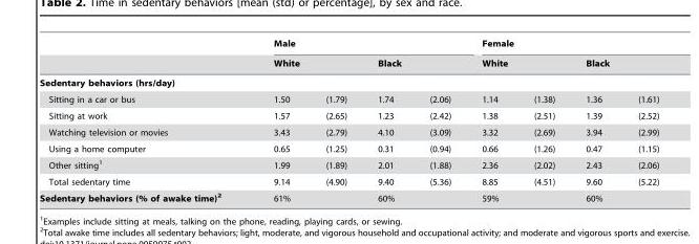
<table><thead><tr><td rowspan="3">Sedentary behaviors (hrs/day)</td><td colspan="4">Male</td><td colspan="4">Female</td></tr><tr><td colspan="2">White</td><td colspan="2">Black</td><td colspan="2">White</td><td colspan="2">Black</td></tr><tr><td></td><td></td><td></td><td></td><td></td><td></td><td></td><td></td></tr></thead><tbody><tr><td>Sitting in a car or bus</td><td>1.50</td><td>(1.79)</td><td>1.74</td><td>(2.06)</td><td>1.14</td><td>(1.38)</td><td>1.36</td><td>(1.61)</td></tr><tr><td>Sitting at work</td><td>1.57</td><td>(2.65)</td><td>1.23</td><td>(2.42)</td><td>1.38</td><td>(2.51)</td><td>1.39</td><td>(2.52)</td></tr><tr><td>Watching television or movies</td><td>3.43</td><td>(2.79)</td><td>4.10</td><td>(3.09)</td><td>3.32</td><td>(2.69)</td><td>3.94</td><td>(2.99)</td></tr><tr><td>Using a home computer</td><td>0.65</td><td>(1.25)</td><td>0.31</td><td>(0.94)</td><td>0.66</td><td>(1.26)</td><td>0.47</td><td>(1.15)</td></tr><tr><td>Other sitting<sup>1</sup></td><td>1.99</td><td>(1.89)</td><td>2.01</td><td>(1.88)</td><td>2.36</td><td>(2.02)</td><td>2.43</td><td>(2.06)</td></tr><tr><td>Total sedentary time</td><td>9.14</td><td>(4.90)</td><td>9.40</td><td>(5.36)</td><td>8.85</td><td>(4.51)</td><td>9.60</td><td>(5.22)</td></tr><tr><td>Sedentary behaviors (% of awake time)2</td><td colspan="2">61%</td><td colspan="2">60%</td><td colspan="2">59%</td><td colspan="2">60%</td></tr></tbody></table>